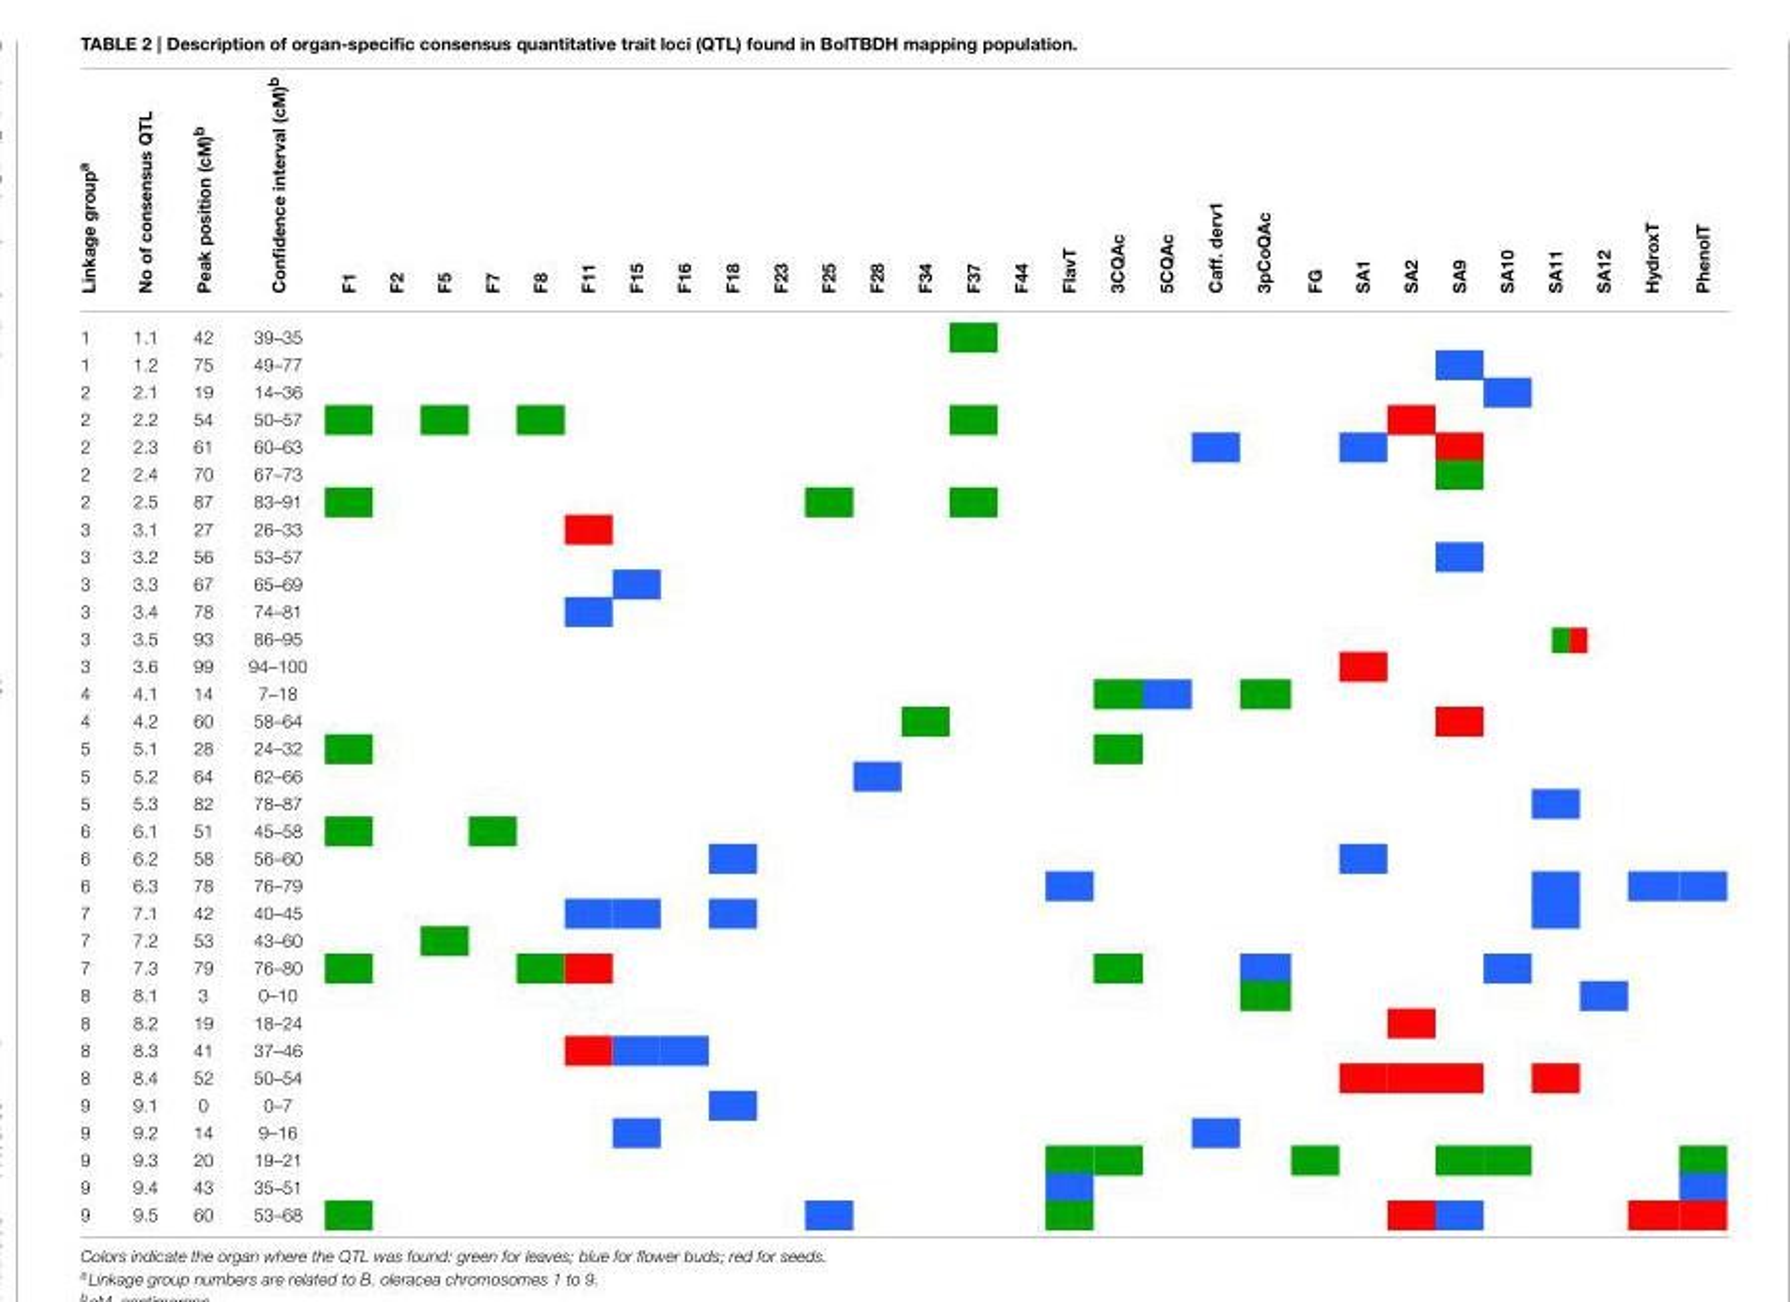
<table><thead><tr><td>Linkage group<sup>a</sup></td><td>No of consensus QTL</td><td>Peak position (cM)<sup>b</sup></td><td>Confidence interval (cM)<sup>b</sup></td><td>F1</td><td>F2</td><td>F5</td><td>F7</td><td>F8</td><td>F11</td><td>F15</td><td>F16</td><td>F18</td><td>F23</td><td>F25</td><td>F28</td><td>F34</td><td>F37</td><td>F44</td><td>FlavT</td><td>3CQAc</td><td>5CQAc</td><td>Caff. derv1</td><td>3pCoQAc</td><td>FG</td><td>SA1</td><td>SA2</td><td>SA9</td><td>SA10</td><td>SA11</td><td>SA12</td><td>HydroxT</td><td>PhenolT</td></tr></thead><tbody><tr><td>1</td><td>1.1</td><td>42</td><td>39–35</td><td></td><td></td><td></td><td></td><td></td><td></td><td></td><td></td><td></td><td></td><td></td><td></td><td></td><td></td><td></td><td></td><td></td><td></td><td></td><td></td><td></td><td></td><td></td><td></td><td></td><td></td><td></td><td></td><td></td></tr><tr><td>1</td><td>1.2</td><td>75</td><td>49–77</td><td></td><td></td><td></td><td></td><td></td><td></td><td></td><td></td><td></td><td></td><td></td><td></td><td></td><td></td><td></td><td></td><td></td><td></td><td></td><td></td><td></td><td></td><td></td><td></td><td></td><td></td><td></td><td></td><td></td></tr><tr><td>2</td><td>2.1</td><td>19</td><td>14–36</td><td></td><td></td><td></td><td></td><td></td><td></td><td></td><td></td><td></td><td></td><td></td><td></td><td></td><td></td><td></td><td></td><td></td><td></td><td></td><td></td><td></td><td></td><td></td><td></td><td></td><td></td><td></td><td></td><td></td></tr><tr><td>2</td><td>2.2</td><td>54</td><td>50–57</td><td></td><td></td><td></td><td></td><td></td><td></td><td></td><td></td><td></td><td></td><td></td><td></td><td></td><td></td><td></td><td></td><td></td><td></td><td></td><td></td><td></td><td></td><td></td><td></td><td></td><td></td><td></td><td></td><td></td></tr><tr><td>2</td><td>2.3</td><td>61</td><td>60–63</td><td></td><td></td><td></td><td></td><td></td><td></td><td></td><td></td><td></td><td></td><td></td><td></td><td></td><td></td><td></td><td></td><td></td><td></td><td></td><td></td><td></td><td></td><td></td><td></td><td></td><td></td><td></td><td></td><td></td></tr><tr><td>2</td><td>2.4</td><td>70</td><td>67–73</td><td></td><td></td><td></td><td></td><td></td><td></td><td></td><td></td><td></td><td></td><td></td><td></td><td></td><td></td><td></td><td></td><td></td><td></td><td></td><td></td><td></td><td></td><td></td><td></td><td></td><td></td><td></td><td></td><td></td></tr><tr><td>2</td><td>2.5</td><td>87</td><td>83–91</td><td></td><td></td><td></td><td></td><td></td><td></td><td></td><td></td><td></td><td></td><td></td><td></td><td></td><td></td><td></td><td></td><td></td><td></td><td></td><td></td><td></td><td></td><td></td><td></td><td></td><td></td><td></td><td></td><td></td></tr><tr><td>3</td><td>3.1</td><td>27</td><td>26–33</td><td></td><td></td><td></td><td></td><td></td><td></td><td></td><td></td><td></td><td></td><td></td><td></td><td></td><td></td><td></td><td></td><td></td><td></td><td></td><td></td><td></td><td></td><td></td><td></td><td></td><td></td><td></td><td></td><td></td></tr><tr><td>3</td><td>3.2</td><td>56</td><td>53–57</td><td></td><td></td><td></td><td></td><td></td><td></td><td></td><td></td><td></td><td></td><td></td><td></td><td></td><td></td><td></td><td></td><td></td><td></td><td></td><td></td><td></td><td></td><td></td><td></td><td></td><td></td><td></td><td></td><td></td></tr><tr><td>3</td><td>3.3</td><td>67</td><td>65–69</td><td></td><td></td><td></td><td></td><td></td><td></td><td></td><td></td><td></td><td></td><td></td><td></td><td></td><td></td><td></td><td></td><td></td><td></td><td></td><td></td><td></td><td></td><td></td><td></td><td></td><td></td><td></td><td></td><td></td></tr><tr><td>3</td><td>3.4</td><td>78</td><td>74–81</td><td></td><td></td><td></td><td></td><td></td><td></td><td></td><td></td><td></td><td></td><td></td><td></td><td></td><td></td><td></td><td></td><td></td><td></td><td></td><td></td><td></td><td></td><td></td><td></td><td></td><td></td><td></td><td></td><td></td></tr><tr><td>3</td><td>3.5</td><td>93</td><td>86–95</td><td></td><td></td><td></td><td></td><td></td><td></td><td></td><td></td><td></td><td></td><td></td><td></td><td></td><td></td><td></td><td></td><td></td><td></td><td></td><td></td><td></td><td></td><td></td><td></td><td></td><td></td><td></td><td></td><td></td></tr><tr><td>3</td><td>3.6</td><td>99</td><td>94–100</td><td></td><td></td><td></td><td></td><td></td><td></td><td></td><td></td><td></td><td></td><td></td><td></td><td></td><td></td><td></td><td></td><td></td><td></td><td></td><td></td><td></td><td></td><td></td><td></td><td></td><td></td><td></td><td></td><td></td></tr><tr><td>4</td><td>4.1</td><td>14</td><td>7–18</td><td></td><td></td><td></td><td></td><td></td><td></td><td></td><td></td><td></td><td></td><td></td><td></td><td></td><td></td><td></td><td></td><td></td><td></td><td></td><td></td><td></td><td></td><td></td><td></td><td></td><td></td><td></td><td></td><td></td></tr><tr><td>4</td><td>4.2</td><td>60</td><td>58–64</td><td></td><td></td><td></td><td></td><td></td><td></td><td></td><td></td><td></td><td></td><td></td><td></td><td></td><td></td><td></td><td></td><td></td><td></td><td></td><td></td><td></td><td></td><td></td><td></td><td></td><td></td><td></td><td></td><td></td></tr><tr><td>5</td><td>5.1</td><td>28</td><td>24–32</td><td></td><td></td><td></td><td></td><td></td><td></td><td></td><td></td><td></td><td></td><td></td><td></td><td></td><td></td><td></td><td></td><td></td><td></td><td></td><td></td><td></td><td></td><td></td><td></td><td></td><td></td><td></td><td></td><td></td></tr><tr><td>5</td><td>5.2</td><td>64</td><td>62–66</td><td></td><td></td><td></td><td></td><td></td><td></td><td></td><td></td><td></td><td></td><td></td><td></td><td></td><td></td><td></td><td></td><td></td><td></td><td></td><td></td><td></td><td></td><td></td><td></td><td></td><td></td><td></td><td></td><td></td></tr><tr><td>5</td><td>5.3</td><td>82</td><td>78–87</td><td></td><td></td><td></td><td></td><td></td><td></td><td></td><td></td><td></td><td></td><td></td><td></td><td></td><td></td><td></td><td></td><td></td><td></td><td></td><td></td><td></td><td></td><td></td><td></td><td></td><td></td><td></td><td></td><td></td></tr><tr><td>6</td><td>6.1</td><td>51</td><td>45–58</td><td></td><td></td><td></td><td></td><td></td><td></td><td></td><td></td><td></td><td></td><td></td><td></td><td></td><td></td><td></td><td></td><td></td><td></td><td></td><td></td><td></td><td></td><td></td><td></td><td></td><td></td><td></td><td></td><td></td></tr><tr><td>6</td><td>6.2</td><td>58</td><td>56–60</td><td></td><td></td><td></td><td></td><td></td><td></td><td></td><td></td><td></td><td></td><td></td><td></td><td></td><td></td><td></td><td></td><td></td><td></td><td></td><td></td><td></td><td></td><td></td><td></td><td></td><td></td><td></td><td></td><td></td></tr><tr><td>6</td><td>6.3</td><td>78</td><td>76–79</td><td></td><td></td><td></td><td></td><td></td><td></td><td></td><td></td><td></td><td></td><td></td><td></td><td></td><td></td><td></td><td></td><td></td><td></td><td></td><td></td><td></td><td></td><td></td><td></td><td></td><td></td><td></td><td></td><td></td></tr><tr><td>7</td><td>7.1</td><td>42</td><td>40–45</td><td></td><td></td><td></td><td></td><td></td><td></td><td></td><td></td><td></td><td></td><td></td><td></td><td></td><td></td><td></td><td></td><td></td><td></td><td></td><td></td><td></td><td></td><td></td><td></td><td></td><td></td><td></td><td></td><td></td></tr><tr><td>7</td><td>7.2</td><td>53</td><td>43–60</td><td></td><td></td><td></td><td></td><td></td><td></td><td></td><td></td><td></td><td></td><td></td><td></td><td></td><td></td><td></td><td></td><td></td><td></td><td></td><td></td><td></td><td></td><td></td><td></td><td></td><td></td><td></td><td></td><td></td></tr><tr><td>7</td><td>7.3</td><td>79</td><td>76–80</td><td></td><td></td><td></td><td></td><td></td><td></td><td></td><td></td><td></td><td></td><td></td><td></td><td></td><td></td><td></td><td></td><td></td><td></td><td></td><td></td><td></td><td></td><td></td><td></td><td></td><td></td><td></td><td></td><td></td></tr><tr><td>8</td><td>8.1</td><td>3</td><td>0–10</td><td></td><td></td><td></td><td></td><td></td><td></td><td></td><td></td><td></td><td></td><td></td><td></td><td></td><td></td><td></td><td></td><td></td><td></td><td></td><td></td><td></td><td></td><td></td><td></td><td></td><td></td><td></td><td></td><td></td></tr><tr><td>8</td><td>8.2</td><td>19</td><td>18–24</td><td></td><td></td><td></td><td></td><td></td><td></td><td></td><td></td><td></td><td></td><td></td><td></td><td></td><td></td><td></td><td></td><td></td><td></td><td></td><td></td><td></td><td></td><td></td><td></td><td></td><td></td><td></td><td></td><td></td></tr><tr><td>8</td><td>8.3</td><td>41</td><td>37–46</td><td></td><td></td><td></td><td></td><td></td><td></td><td></td><td></td><td></td><td></td><td></td><td></td><td></td><td></td><td></td><td></td><td></td><td></td><td></td><td></td><td></td><td></td><td></td><td></td><td></td><td></td><td></td><td></td><td></td></tr><tr><td>8</td><td>8.4</td><td>52</td><td>50–54</td><td></td><td></td><td></td><td></td><td></td><td></td><td></td><td></td><td></td><td></td><td></td><td></td><td></td><td></td><td></td><td></td><td></td><td></td><td></td><td></td><td></td><td></td><td></td><td></td><td></td><td></td><td></td><td></td><td></td></tr><tr><td>9</td><td>9.1</td><td>0</td><td>0–7</td><td></td><td></td><td></td><td></td><td></td><td></td><td></td><td></td><td></td><td></td><td></td><td></td><td></td><td></td><td></td><td></td><td></td><td></td><td></td><td></td><td></td><td></td><td></td><td></td><td></td><td></td><td></td><td></td><td></td></tr><tr><td>9</td><td>9.2</td><td>14</td><td>9–16</td><td></td><td></td><td></td><td></td><td></td><td></td><td></td><td></td><td></td><td></td><td></td><td></td><td></td><td></td><td></td><td></td><td></td><td></td><td></td><td></td><td></td><td></td><td></td><td></td><td></td><td></td><td></td><td></td><td></td></tr><tr><td>9</td><td>9.3</td><td>20</td><td>19–21</td><td></td><td></td><td></td><td></td><td></td><td></td><td></td><td></td><td></td><td></td><td></td><td></td><td></td><td></td><td></td><td></td><td></td><td></td><td></td><td></td><td></td><td></td><td></td><td></td><td></td><td></td><td></td><td></td><td></td></tr><tr><td>9</td><td>9.4</td><td>43</td><td>35–51</td><td></td><td></td><td></td><td></td><td></td><td></td><td></td><td></td><td></td><td></td><td></td><td></td><td></td><td></td><td></td><td></td><td></td><td></td><td></td><td></td><td></td><td></td><td></td><td></td><td></td><td></td><td></td><td></td><td></td></tr><tr><td>9</td><td>9.5</td><td>60</td><td>53–68</td><td></td><td></td><td></td><td></td><td></td><td></td><td></td><td></td><td></td><td></td><td></td><td></td><td></td><td></td><td></td><td></td><td></td><td></td><td></td><td></td><td></td><td></td><td></td><td></td><td></td><td></td><td></td><td></td><td></td></tr></tbody></table>